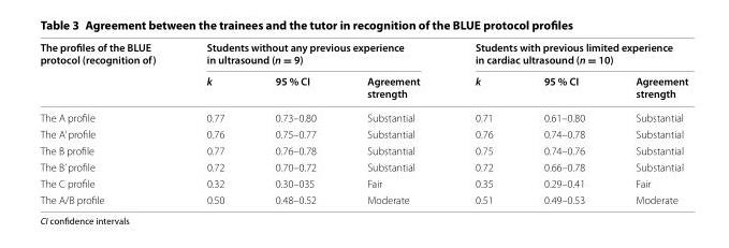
<table><thead><tr><td rowspan="2">The profiles of the BLUE protocol (recognition of)</td><td colspan="3">Students without any previous experience in ultrasound (n = 9)</td><td colspan="3">Students with previous limited experience in cardiac ultrasound (n = 10)</td></tr><tr><td>k</td><td>95 % CI</td><td>Agreement strength</td><td>k</td><td>95 % CI</td><td>Agreement strength</td></tr></thead><tbody><tr><td>The A profile</td><td>0.77</td><td>0.73–0.80</td><td>Substantial</td><td>0.71</td><td>0.61–0.80</td><td>Substantial</td></tr><tr><td>The A’ profile</td><td>0.76</td><td>0.75–0.77</td><td>Substantial</td><td>0.76</td><td>0.74–0.78</td><td>Substantial</td></tr><tr><td>The B profile</td><td>0.77</td><td>0.76–0.78</td><td>Substantial</td><td>0.75</td><td>0.74–0.76</td><td>Substantial</td></tr><tr><td>The B’ profile</td><td>0.72</td><td>0.70–0.72</td><td>Substantial</td><td>0.72</td><td>0.66–0.78</td><td>Substantial</td></tr><tr><td>The C profile</td><td>0.32</td><td>0.30–035</td><td>Fair</td><td>0.35</td><td>0.29–0.41</td><td>Fair</td></tr><tr><td>The A/B profile</td><td>0.50</td><td>0.48–0.52</td><td>Moderate</td><td>0.51</td><td>0.49–0.53</td><td>Moderate</td></tr></tbody></table>